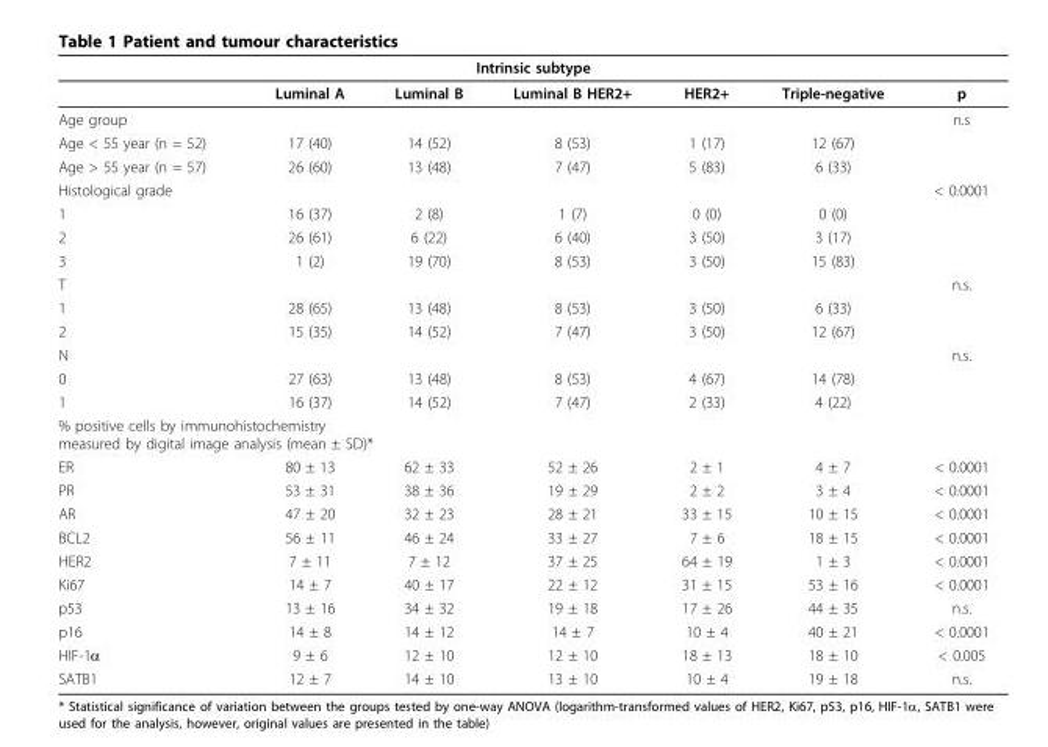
<table><thead><tr><td colspan="7">Intrinsic subtype</td></tr><tr><td></td><td>Luminal A</td><td>Luminal B</td><td>Luminal B HER2+</td><td>HER2+</td><td>Triple-negative</td><td>p</td></tr></thead><tbody><tr><td>Age group</td><td></td><td></td><td></td><td></td><td></td><td>n.s</td></tr><tr><td>Age &lt; 55 year (n = 52)</td><td>17 (40)</td><td>14 (52)</td><td>8 (53)</td><td>1 (17)</td><td>12 (67)</td><td></td></tr><tr><td>Age &gt; 55 year (n = 57)</td><td>26 (60)</td><td>13 (48)</td><td>7 (47)</td><td>5 (83)</td><td>6 (33)</td><td></td></tr><tr><td>Histological grade</td><td></td><td></td><td></td><td></td><td></td><td>&lt; 0.0001</td></tr><tr><td>1</td><td>16 (37)</td><td>2 (8)</td><td>1 (7)</td><td>0 (0)</td><td>0 (0)</td><td></td></tr><tr><td>2</td><td>26 (61)</td><td>6 (22)</td><td>6 (40)</td><td>3 (50)</td><td>3 (17)</td><td></td></tr><tr><td>3</td><td>1 (2)</td><td>19 (70)</td><td>8 (53)</td><td>3 (50)</td><td>15 (83)</td><td></td></tr><tr><td>T</td><td></td><td></td><td></td><td></td><td></td><td>n.s.</td></tr><tr><td>1</td><td>28 (65)</td><td>13 (48)</td><td>8 (53)</td><td>3 (50)</td><td>6 (33)</td><td></td></tr><tr><td>2</td><td>15 (35)</td><td>14 (52)</td><td>7 (47)</td><td>3 (50)</td><td>12 (67)</td><td></td></tr><tr><td>N</td><td></td><td></td><td></td><td></td><td></td><td>n.s.</td></tr><tr><td>0</td><td>27 (63)</td><td>13 (48)</td><td>8 (53)</td><td>4 (67)</td><td>14 (78)</td><td></td></tr><tr><td>1</td><td>16 (37)</td><td>14 (52)</td><td>7 (47)</td><td>2 (33)</td><td>4 (22)</td><td></td></tr><tr><td colspan="7">% positive cells by immunohistochemistry measured by digital image analysis (mean ± SD)*</td></tr><tr><td>ER</td><td>80 ± 13</td><td>62 ± 33</td><td>52 ± 26</td><td>2 ± 1</td><td>4 ± 7</td><td>&lt; 0.0001</td></tr><tr><td>PR</td><td>53 ± 31</td><td>38 ± 36</td><td>19 ± 29</td><td>2 ± 2</td><td>3 ± 4</td><td>&lt; 0.0001</td></tr><tr><td>AR</td><td>47 ± 20</td><td>32 ± 23</td><td>28 ± 21</td><td>33 ± 15</td><td>10 ± 15</td><td>&lt; 0.0001</td></tr><tr><td>BCL2</td><td>56 ± 11</td><td>46 ± 24</td><td>33 ± 27</td><td>7 ± 6</td><td>18 ± 15</td><td>&lt; 0.0001</td></tr><tr><td>HER2</td><td>7 ± 11</td><td>7 ± 12</td><td>37 ± 25</td><td>64 ± 19</td><td>1 ± 3</td><td>&lt; 0.0001</td></tr><tr><td>Ki67</td><td>14 ± 7</td><td>40 ± 17</td><td>22 ± 12</td><td>31 ± 15</td><td>53 ± 16</td><td>&lt; 0.0001</td></tr><tr><td>p53</td><td>13 ± 16</td><td>34 ± 32</td><td>19 ± 18</td><td>17 ± 26</td><td>44 ± 35</td><td>n.s.</td></tr><tr><td>p16</td><td>14 ± 8</td><td>14 ± 12</td><td>14 ± 7</td><td>10 ± 4</td><td>40 ± 21</td><td>&lt; 0.0001</td></tr><tr><td>HIF-1α</td><td>9 ± 6</td><td>12 ± 10</td><td>12 ± 10</td><td>18 ± 13</td><td>18 ± 10</td><td>&lt; 0.005</td></tr><tr><td>SATB1</td><td>12 ± 7</td><td>14 ± 10</td><td>13 ± 10</td><td>10 ± 4</td><td>19 ± 18</td><td>n.s.</td></tr></tbody></table>